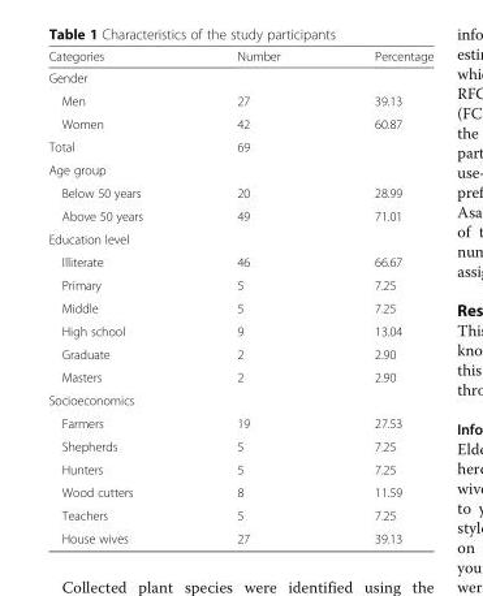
<table><thead><tr><td>Categories</td><td>Number</td><td>Percentage</td></tr></thead><tbody><tr><td colspan="3">Gender</td></tr><tr><td>Men</td><td>27</td><td>39.13</td></tr><tr><td>Women</td><td>42</td><td>60.87</td></tr><tr><td>Total</td><td>69</td><td></td></tr><tr><td colspan="3">Age group</td></tr><tr><td>Below 50 years</td><td>20</td><td>28.99</td></tr><tr><td>Above 50 years</td><td>49</td><td>71.01</td></tr><tr><td colspan="3">Education level</td></tr><tr><td>Illiterate</td><td>46</td><td>66.67</td></tr><tr><td>Primary</td><td>5</td><td>7.25</td></tr><tr><td>Middle</td><td>5</td><td>7.25</td></tr><tr><td>High school</td><td>9</td><td>13.04</td></tr><tr><td>Graduate</td><td>2</td><td>2.90</td></tr><tr><td>Masters</td><td>2</td><td>2.90</td></tr><tr><td colspan="3">Socioeconomics</td></tr><tr><td>Farmers</td><td>19</td><td>27.53</td></tr><tr><td>Shepherds</td><td>5</td><td>7.25</td></tr><tr><td>Hunters</td><td>5</td><td>7.25</td></tr><tr><td>Wood cutters</td><td>8</td><td>11.59</td></tr><tr><td>Teachers</td><td>5</td><td>7.25</td></tr><tr><td>House wives</td><td>27</td><td>39.13</td></tr></tbody></table>